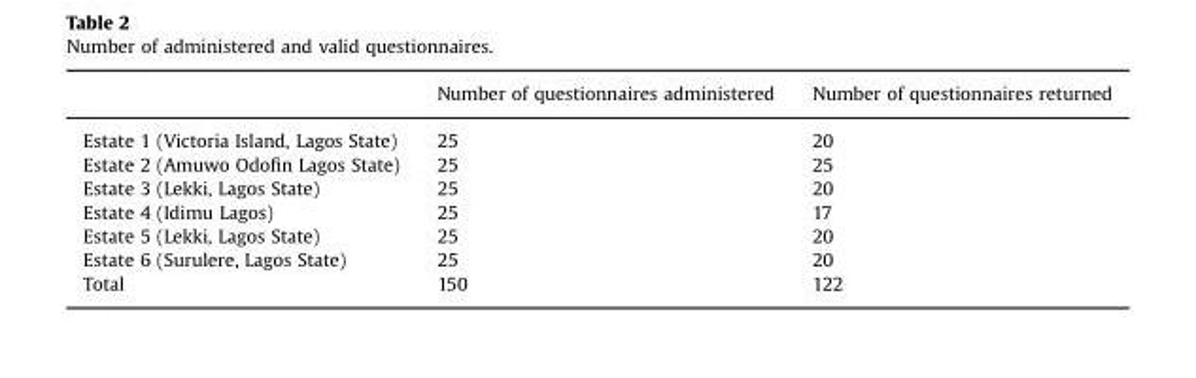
<table><thead><tr><td></td><td>Number of questionnaires administered</td><td>Number of questionnaires returned</td></tr></thead><tbody><tr><td>Estate 1 (Victoria Island, Lagos State)</td><td>25</td><td>20</td></tr><tr><td>Estate 2 (Amuwo Odofin Lagos State)</td><td>25</td><td>25</td></tr><tr><td>Estate 3 (Lekki, Lagos State)</td><td>25</td><td>20</td></tr><tr><td>Estate 4 (Idimu Lagos)</td><td>25</td><td>17</td></tr><tr><td>Estate 5 (Lekki, Lagos State)</td><td>25</td><td>20</td></tr><tr><td>Estate 6 (Surulere, Lagos State)</td><td>25</td><td>20</td></tr><tr><td>Total</td><td>150</td><td>122</td></tr></tbody></table>